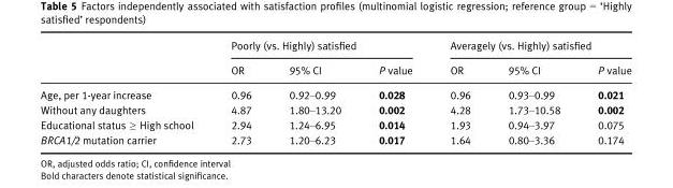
<table><thead><tr><td rowspan="2"></td><td colspan="3">Poorly (vs. Highly) satisfied</td><td colspan="3">Averagely (vs. Highly) satisfied</td></tr><tr><td>OR</td><td>95% CI</td><td>P value</td><td>OR</td><td>95% CI</td><td>P value</td></tr></thead><tbody><tr><td>Age, per 1-year increase</td><td>0.96</td><td>0.92–0.99</td><td>0.028</td><td>0.96</td><td>0.93–0.99</td><td>0.021</td></tr><tr><td>Without any daughters</td><td>4.87</td><td>1.80–13.20</td><td>0.002</td><td>4.28</td><td>1.73–10.58</td><td>0.002</td></tr><tr><td>Educational status ≥ High school</td><td>2.94</td><td>1.24–6.95</td><td>0.014</td><td>1.93</td><td>0.94–3.97</td><td>0.075</td></tr><tr><td>BRCA1/2 mutation carrier</td><td>2.73</td><td>1.20–6.23</td><td>0.017</td><td>1.64</td><td>0.80–3.36</td><td>0.174</td></tr></tbody></table>